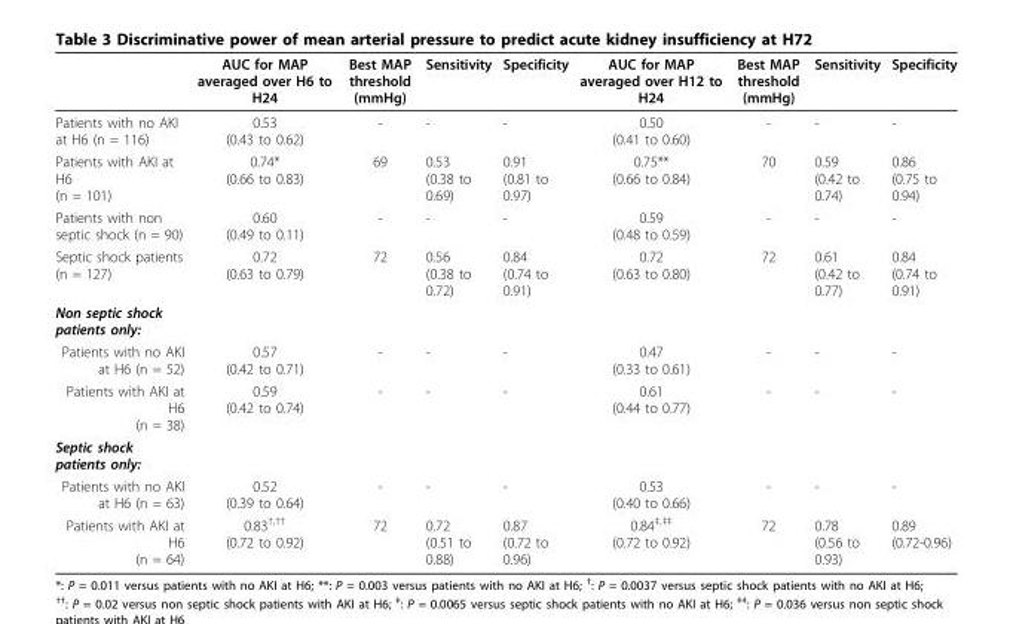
<table><thead><tr><td></td><td>AUC for MAP averaged over H6 to H24</td><td>Best MAP threshold (mmHg)</td><td>Sensitivity</td><td>Specificity</td><td>AUC for MAP averaged over H12 to H24</td><td>Best MAP threshold (mmHg)</td><td>Sensitivity</td><td>Specificity</td></tr></thead><tbody><tr><td>Patients with no AKI at H6 (n = 116)</td><td>0.53 (0.43 to 0.62)</td><td>-</td><td>-</td><td>-</td><td>0.50 (0.41 to 0.60)</td><td>-</td><td>-</td><td>-</td></tr><tr><td>Patients with AKI at H6 (n = 101)</td><td>0.74* (0.66 to 0.83)</td><td>69</td><td>0.53 (0.38 to 0.69)</td><td>0.91 (0.81 to 0.97)</td><td>0.75** (0.66 to 0.84)</td><td>70</td><td>0.59 (0.42 to 0.74)</td><td>0.86 (0.75 to 0.94)</td></tr><tr><td>Patients with non septic shock (n = 90)</td><td>0.60 (0.49 to 0.11)</td><td>-</td><td>-</td><td>-</td><td>0.59 (0.48 to 0.59)</td><td>-</td><td>-</td><td>-</td></tr><tr><td>Septic shock patients (n = 127)</td><td>0.72 (0.63 to 0.79)</td><td>72</td><td>0.56 (0.38 to 0.72)</td><td>0.84 (0.74 to 0.91)</td><td>0.72 (0.63 to 0.80)</td><td>72</td><td>0.61 (0.42 to 0.77)</td><td>0.84 (0.74 to 0.91)</td></tr><tr><td colspan="9">Non septic shock patients only:</td></tr><tr><td>Patients with no AKI at H6 (n = 52)</td><td>0.57 (0.42 to 0.71)</td><td>-</td><td>-</td><td>-</td><td>0.47 (0.33 to 0.61)</td><td>-</td><td>-</td><td>-</td></tr><tr><td>Patients with AKI at H6 (n = 38)</td><td>0.59 (0.42 to 0.74)</td><td>-</td><td>-</td><td>-</td><td>0.61 (0.44 to 0.77)</td><td>-</td><td>-</td><td>-</td></tr><tr><td colspan="9">Septic shock patients only:</td></tr><tr><td>Patients with no AKI at H6 (n = 63)</td><td>0.52 (0.39 to 0.64)</td><td>-</td><td>-</td><td>-</td><td>0.53 (0.40 to 0.66)</td><td>-</td><td>-</td><td>-</td></tr><tr><td>Patients with AKI at H6 (n = 64)</td><td>0.83<sup>†,††</sup> (0.72 to 0.92)</td><td>72</td><td>0.72 (0.51 to 0.88)</td><td>0.87 (0.72 to 0.96)</td><td>0.84<sup>‡,‡‡</sup> (0.72 to 0.92)</td><td>72</td><td>0.78 (0.56 to 0.93)</td><td>0.89 (0.72-0.96)</td></tr></tbody></table>